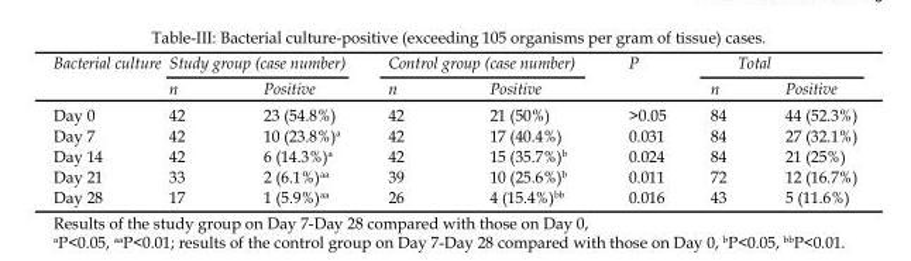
<table><thead><tr><td rowspan="2">Bacterial culture</td><td colspan="2">Study group (case number)</td><td colspan="2">Control group (case number)</td><td rowspan="2">P</td><td colspan="2">Total</td></tr><tr><td>n</td><td>Positive</td><td>n</td><td>Positive</td><td>n</td><td>Positive</td></tr></thead><tbody><tr><td>Day 0</td><td>42</td><td>23 (54.8%)</td><td>42</td><td>21 (50%)</td><td>&gt;0.05</td><td>84</td><td>44 (52.3%)</td></tr><tr><td>Day 7</td><td>42</td><td>10 (23.8%)<sup>a</sup></td><td>42</td><td>17 (40.4%)</td><td>0.031</td><td>84</td><td>27 (32.1%)</td></tr><tr><td>Day 14</td><td>42</td><td>6 (14.3%)<sup>a</sup></td><td>42</td><td>15 (35.7%)<sup>b</sup></td><td>0.024</td><td>84</td><td>21 (25%)</td></tr><tr><td>Day 21</td><td>33</td><td>2 (6.1%)<sup>aa</sup></td><td>39</td><td>10 (25.6%)<sup>b</sup></td><td>0.011</td><td>72</td><td>12 (16.7%)</td></tr><tr><td>Day 28</td><td>17</td><td>1 (5.9%)<sup>aa</sup></td><td>26</td><td>4 (15.4%)<sup>bb</sup></td><td>0.016</td><td>43</td><td>5 (11.6%)</td></tr></tbody></table>